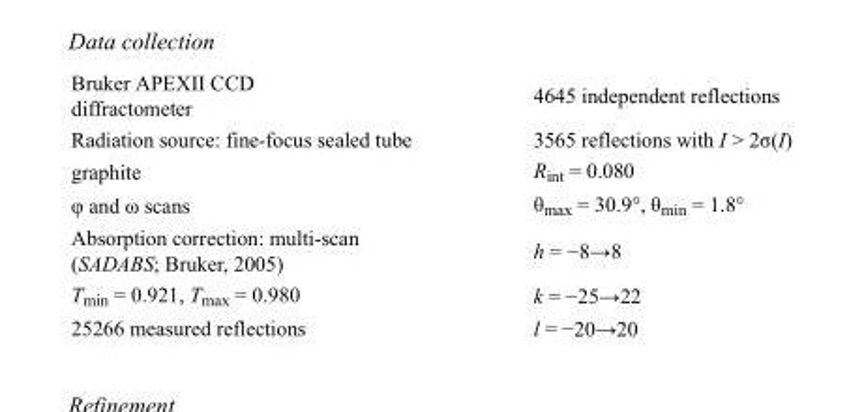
<table><tbody><tr><td>Bruker APEXII CCD diffractometer</td><td>4645 independent reflections</td></tr><tr><td>Radiation source: fine-focus sealed tube</td><td>3565 reflections with I &gt; 2σ(I)</td></tr><tr><td>graphite</td><td>R<sub>int</sub> = 0.080</td></tr><tr><td>φ and ω scans</td><td>θ<sub>max</sub> = 30.9°, θ<sub>min</sub> = 1.8°</td></tr><tr><td>Absorption correction: multi-scan (SADABS; Bruker, 2005)</td><td>h = −8→8</td></tr><tr><td>T<sub>min</sub> = 0.921, T<sub>max</sub> = 0.980</td><td>k = −25→22</td></tr><tr><td>25266 measured reflections</td><td>l = −20→20</td></tr></tbody></table>